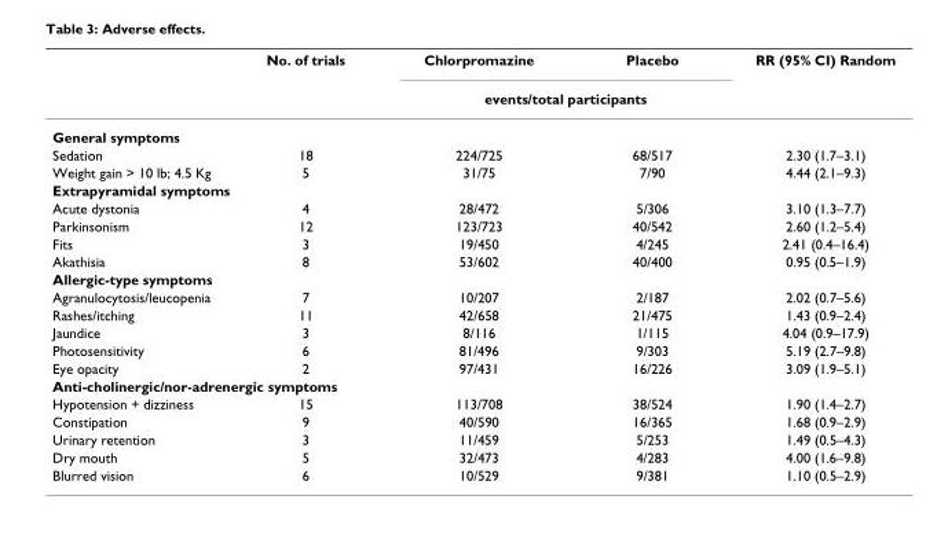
<table><thead><tr><td rowspan="2"></td><td rowspan="2">No. of trials</td><td>Chlorpromazine</td><td>Placebo</td><td rowspan="2">RR (95% CI) Random</td></tr><tr><td colspan="2">events/total participants</td></tr></thead><tbody><tr><td colspan="5">General symptoms</td></tr><tr><td>Sedation</td><td>18</td><td>224/725</td><td>68/517</td><td>2.30 (1.7–3.1)</td></tr><tr><td>Weight gain &gt; 10 lb; 4.5 Kg</td><td>5</td><td>31/75</td><td>7/90</td><td>4.44 (2.1–9.3)</td></tr><tr><td colspan="5">Extrapyramidal symptoms</td></tr><tr><td>Acute dystonia</td><td>4</td><td>28/472</td><td>5/306</td><td>3.10 (1.3–7.7)</td></tr><tr><td>Parkinsonism</td><td>12</td><td>123/723</td><td>40/542</td><td>2.60 (1.2–5.4)</td></tr><tr><td>Fits</td><td>3</td><td>19/450</td><td>4/245</td><td>2.41 (0.4–16.4)</td></tr><tr><td>Akathisia</td><td>8</td><td>53/602</td><td>40/400</td><td>0.95 (0.5–1.9)</td></tr><tr><td colspan="5">Allergic-type symptoms</td></tr><tr><td>Agranulocytosis/leucopenia</td><td>7</td><td>10/207</td><td>2/187</td><td>2.02 (0.7–5.6)</td></tr><tr><td>Rashes/itching</td><td>11</td><td>42/658</td><td>21/475</td><td>1.43 (0.9–2.4)</td></tr><tr><td>Jaundice</td><td>3</td><td>8/116</td><td>1/115</td><td>4.04 (0.9–17.9)</td></tr><tr><td>Photosensitivity</td><td>6</td><td>81/496</td><td>9/303</td><td>5.19 (2.7–9.8)</td></tr><tr><td>Eye opacity</td><td>2</td><td>97/431</td><td>16/226</td><td>3.09 (1.9–5.1)</td></tr><tr><td colspan="5">Anti-cholinergic/nor-adrenergic symptoms</td></tr><tr><td>Hypotension + dizziness</td><td>15</td><td>113/708</td><td>38/524</td><td>1.90 (1.4–2.7)</td></tr><tr><td>Constipation</td><td>9</td><td>40/590</td><td>16/365</td><td>1.68 (0.9–2.9)</td></tr><tr><td>Urinary retention</td><td>3</td><td>11/459</td><td>5/253</td><td>1.49 (0.5–4.3)</td></tr><tr><td>Dry mouth</td><td>5</td><td>32/473</td><td>4/283</td><td>4.00 (1.6–9.8)</td></tr><tr><td>Blurred vision</td><td>6</td><td>10/529</td><td>9/381</td><td>1.10 (0.5–2.9)</td></tr></tbody></table>